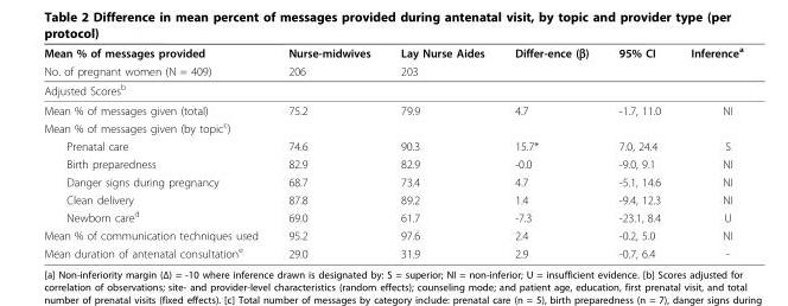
<table><thead><tr><td rowspan="2">Mean % of messages provided No. of pregnant women (N = 409)</td><td rowspan="2">Nurse-midwives 206</td><td rowspan="2">Lay Nurse Aides 203</td><td rowspan="2">Differ-ence (β)</td><td rowspan="2">95% CI</td><td rowspan="2">Inferencea</td></tr><tr></tr></thead><tbody><tr><td colspan="6">Adjusted Scoresb</td></tr><tr><td>Mean % of messages given (total)</td><td>75.2</td><td>79.9</td><td>4.7</td><td>-1.7, 11.0</td><td>NI</td></tr><tr><td colspan="6">Mean % of messages given (by topic<sup>c</sup>)</td></tr><tr><td>Prenatal care</td><td>74.6</td><td>90.3</td><td>15.7*</td><td>7.0, 24.4</td><td>S</td></tr><tr><td>Birth preparedness</td><td>82.9</td><td>82.9</td><td>-0.0</td><td>-9.0, 9.1</td><td>NI</td></tr><tr><td>Danger signs during pregnancy</td><td>68.7</td><td>73.4</td><td>4.7</td><td>-5.1, 14.6</td><td>NI</td></tr><tr><td>Clean delivery</td><td>87.8</td><td>89.2</td><td>1.4</td><td>-9.4, 12.3</td><td>NI</td></tr><tr><td>Newborn care<sup>d</sup></td><td>69.0</td><td>61.7</td><td>-7.3</td><td>-23.1, 8.4</td><td>U</td></tr><tr><td>Mean % of communication techniques used</td><td>95.2</td><td>97.6</td><td>2.4</td><td>-0.2, 5.0</td><td>NI</td></tr><tr><td>Mean duration of antenatal consultation<sup>e</sup></td><td>29.0</td><td>31.9</td><td>2.9</td><td>-0.7, 6.4</td><td>-</td></tr></tbody></table>